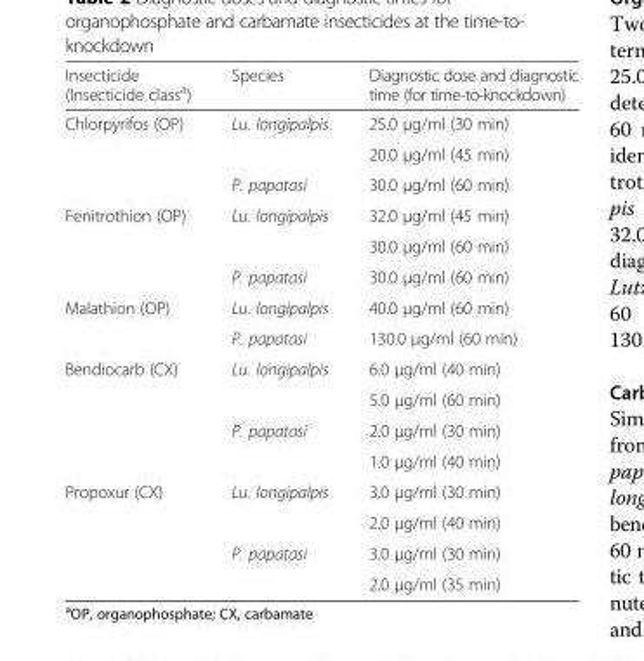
<table><thead><tr><td>Insecticide (Insecticide class<sup>a</sup>)</td><td>Species</td><td>Diagnostic dose and diagnostic time (for time-to-knockdown)</td></tr></thead><tbody><tr><td rowspan="3">Chlorpyrifos (OP)</td><td rowspan="2">Lu. longipalpis</td><td>25.0 μg/ml (30 min)</td></tr><tr><td>20.0 μg/ml (45 min)</td></tr><tr><td>P. papatasi</td><td>30.0 μg/ml (60 min)</td></tr><tr><td rowspan="3">Fenitrothion (OP)</td><td rowspan="2">Lu. longipalpis</td><td>32.0 μg/ml (45 min)</td></tr><tr><td>30.0 μg/ml (60 min)</td></tr><tr><td>P. papatasi</td><td>30.0 μg/ml (60 min)</td></tr><tr><td rowspan="2">Malathion (OP)</td><td>Lu. longipalpis</td><td>40.0 μg/ml (60 min)</td></tr><tr><td>P. papatasi</td><td>130.0 μg/ml (60 min)</td></tr><tr><td rowspan="4">Bendiocarb (CX)</td><td rowspan="2">Lu. longipalpis</td><td>6.0 μg/ml (40 min)</td></tr><tr><td>5.0 μg/ml (60 min)</td></tr><tr><td rowspan="2">P. papatasi</td><td>2.0 μg/ml (30 min)</td></tr><tr><td>1.0 μg/ml (40 min)</td></tr><tr><td rowspan="4">Propoxur (CX)</td><td rowspan="2">Lu. longipalpis</td><td>3.0 μg/ml (30 min)</td></tr><tr><td>2.0 μg/ml (40 min)</td></tr><tr><td rowspan="2">P. papatasi</td><td>3.0 μg/ml (30 min)</td></tr><tr><td>2.0 μg/ml (35 min)</td></tr></tbody></table>